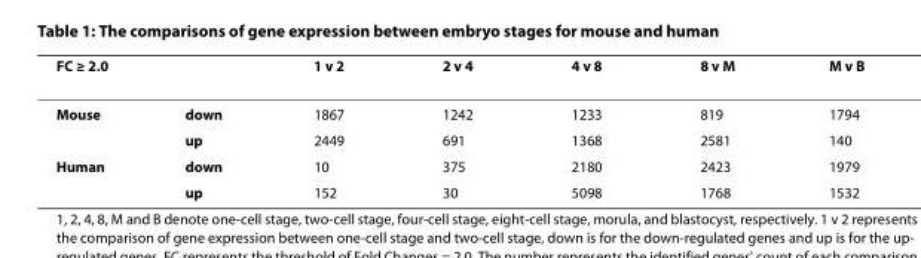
<table><thead><tr><td>FC ≥ 2.0</td><td></td><td>1 v 2</td><td>2 v 4</td><td>4 v 8</td><td>8 v M</td><td>M v B</td></tr></thead><tbody><tr><td rowspan="2">Mouse</td><td>down</td><td>1867</td><td>1242</td><td>1233</td><td>819</td><td>1794</td></tr><tr><td>up</td><td>2449</td><td>691</td><td>1368</td><td>2581</td><td>140</td></tr><tr><td rowspan="2">Human</td><td>down</td><td>10</td><td>375</td><td>2180</td><td>2423</td><td>1979</td></tr><tr><td>up</td><td>152</td><td>30</td><td>5098</td><td>1768</td><td>1532</td></tr></tbody></table>